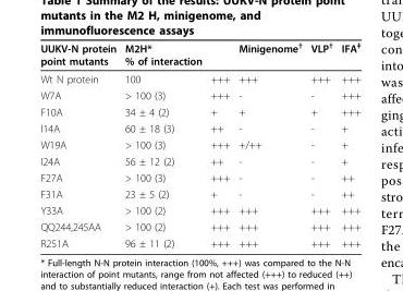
<table><thead><tr><td>UUKV-N protein point mutants</td><td>M2H* % of interaction</td><td></td><td>Minigenome<sup>†</sup></td><td>VLP<sup>†</sup></td><td>IFA<sup>‡</sup></td></tr></thead><tbody><tr><td>Wt N protein</td><td>100</td><td>+++</td><td>+++</td><td>+++</td><td>+++</td></tr><tr><td>W7A</td><td>&gt; 100 (3)</td><td>+++</td><td>-</td><td>-</td><td>+++</td></tr><tr><td>F10A</td><td>34 ± 4 (2)</td><td>+</td><td>+</td><td>+</td><td>+++</td></tr><tr><td>I14A</td><td>60 ± 18 (3)</td><td>++</td><td>-</td><td>-</td><td>+</td></tr><tr><td>W19A</td><td>&gt; 100 (3)</td><td>+++</td><td>+/++</td><td>-</td><td>+</td></tr><tr><td>I24A</td><td>56 ± 12 (2)</td><td>++</td><td>-</td><td>-</td><td>+</td></tr><tr><td>F27A</td><td>&gt; 100 (3)</td><td>+++</td><td>-</td><td>-</td><td>++</td></tr><tr><td>F31A</td><td>23 ± 5 (2)</td><td>+</td><td>-</td><td>-</td><td>++</td></tr><tr><td>Y33A</td><td>&gt; 100 (2)</td><td>+++</td><td>+++</td><td>+++</td><td>+++</td></tr><tr><td>QQ244,245AA</td><td>&gt; 100 (2)</td><td>+++</td><td>+++</td><td>+++</td><td>+++</td></tr><tr><td>R251A</td><td>96 ± 11 (2)</td><td>+++</td><td>+++</td><td>+++</td><td>+++</td></tr></tbody></table>